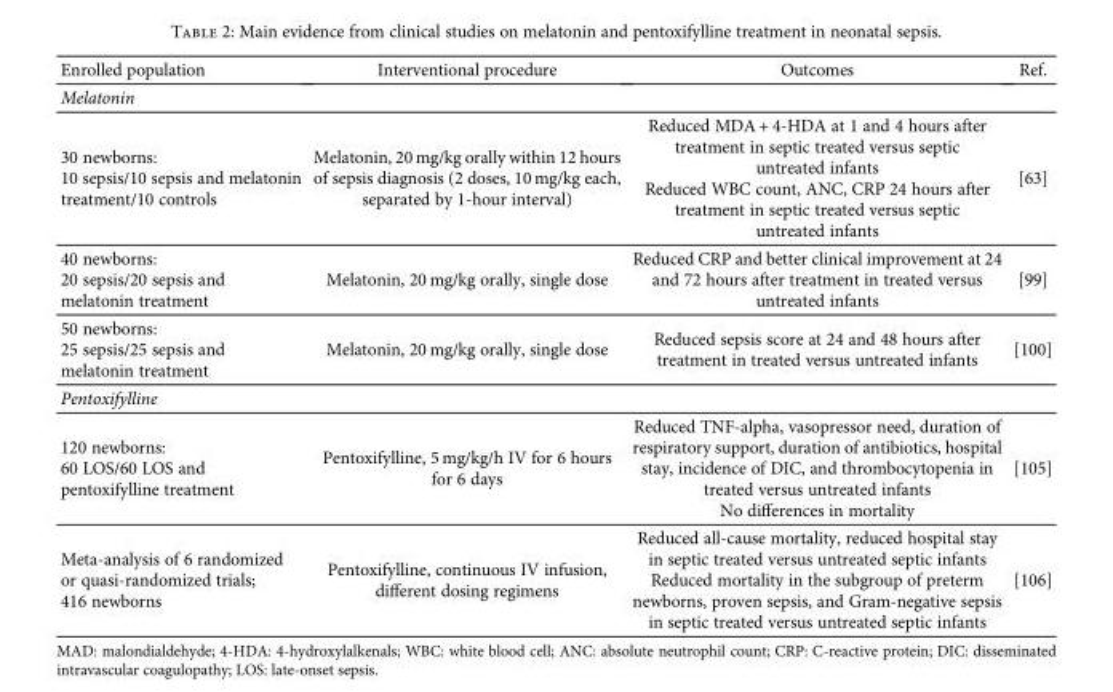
<table><thead><tr><td>Enrolled population</td><td>Interventional procedure</td><td>Outcomes</td><td>Ref.</td></tr></thead><tbody><tr><td colspan="4">Melatonin</td></tr><tr><td>30 newborns: 10 sepsis/10 sepsis and melatonin treatment/10 controls</td><td>Melatonin, 20 mg/kg orally within 12 hours of sepsis diagnosis (2 doses, 10 mg/kg each, separated by 1-hour interval)</td><td>Reduced MDA + 4-HDA at 1 and 4 hours after treatment in septic treated versus septic untreated infants Reduced WBC count, ANC, CRP 24 hours after treatment in septic treated versus septic untreated infants</td><td>[63]</td></tr><tr><td>40 newborns: 20 sepsis/20 sepsis and melatonin treatment</td><td>Melatonin, 20 mg/kg orally, single dose</td><td>Reduced CRP and better clinical improvement at 24 and 72 hours after treatment in treated versus untreated infants</td><td>[99]</td></tr><tr><td>50 newborns: 25 sepsis/25 sepsis and melatonin treatment</td><td>Melatonin, 20 mg/kg orally, single dose</td><td>Reduced sepsis score at 24 and 48 hours after treatment in treated versus untreated infants</td><td>[100]</td></tr><tr><td colspan="4">Pentoxifylline</td></tr><tr><td>120 newborns: 60 LOS/60 LOS and pentoxifylline treatment</td><td>Pentoxifylline, 5 mg/kg/h IV for 6 hours for 6 days</td><td>Reduced TNF-alpha, vasopressor need, duration of respiratory support, duration of antibiotics, hospital stay, incidence of DIC, and thrombocytopenia in treated versus untreated infants No differences in mortality</td><td>[105]</td></tr><tr><td>Meta-analysis of 6 randomized or quasi-randomized trials; 416 newborns</td><td>Pentoxifylline, continuous IV infusion, different dosing regimens</td><td>Reduced all-cause mortality, reduced hospital stay in septic treated versus untreated septic infants Reduced mortality in the subgroup of preterm newborns, proven sepsis, and Gram-negative sepsis in septic treated versus untreated septic infants</td><td>[106]</td></tr></tbody></table>